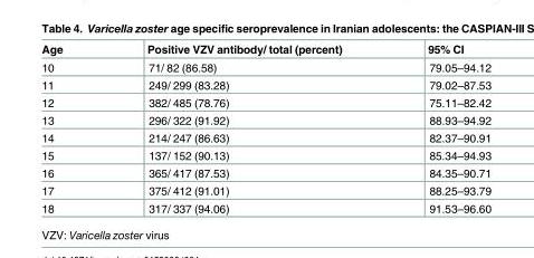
<table><thead><tr><td>Age</td><td>Positive VZV antibody/ total (percent)</td><td>95% CI</td></tr></thead><tbody><tr><td>10</td><td>71/ 82 (86.58)</td><td>79.05–94.12</td></tr><tr><td>11</td><td>249/ 299 (83.28)</td><td>79.02–87.53</td></tr><tr><td>12</td><td>382/ 485 (78.76)</td><td>75.11–82.42</td></tr><tr><td>13</td><td>296/ 322 (91.92)</td><td>88.93–94.92</td></tr><tr><td>14</td><td>214/ 247 (86.63)</td><td>82.37–90.91</td></tr><tr><td>15</td><td>137/ 152 (90.13)</td><td>85.34–94.93</td></tr><tr><td>16</td><td>365/ 417 (87.53)</td><td>84.35–90.71</td></tr><tr><td>17</td><td>375/ 412 (91.01)</td><td>88.25–93.79</td></tr><tr><td>18</td><td>317/ 337 (94.06)</td><td>91.53–96.60</td></tr></tbody></table>